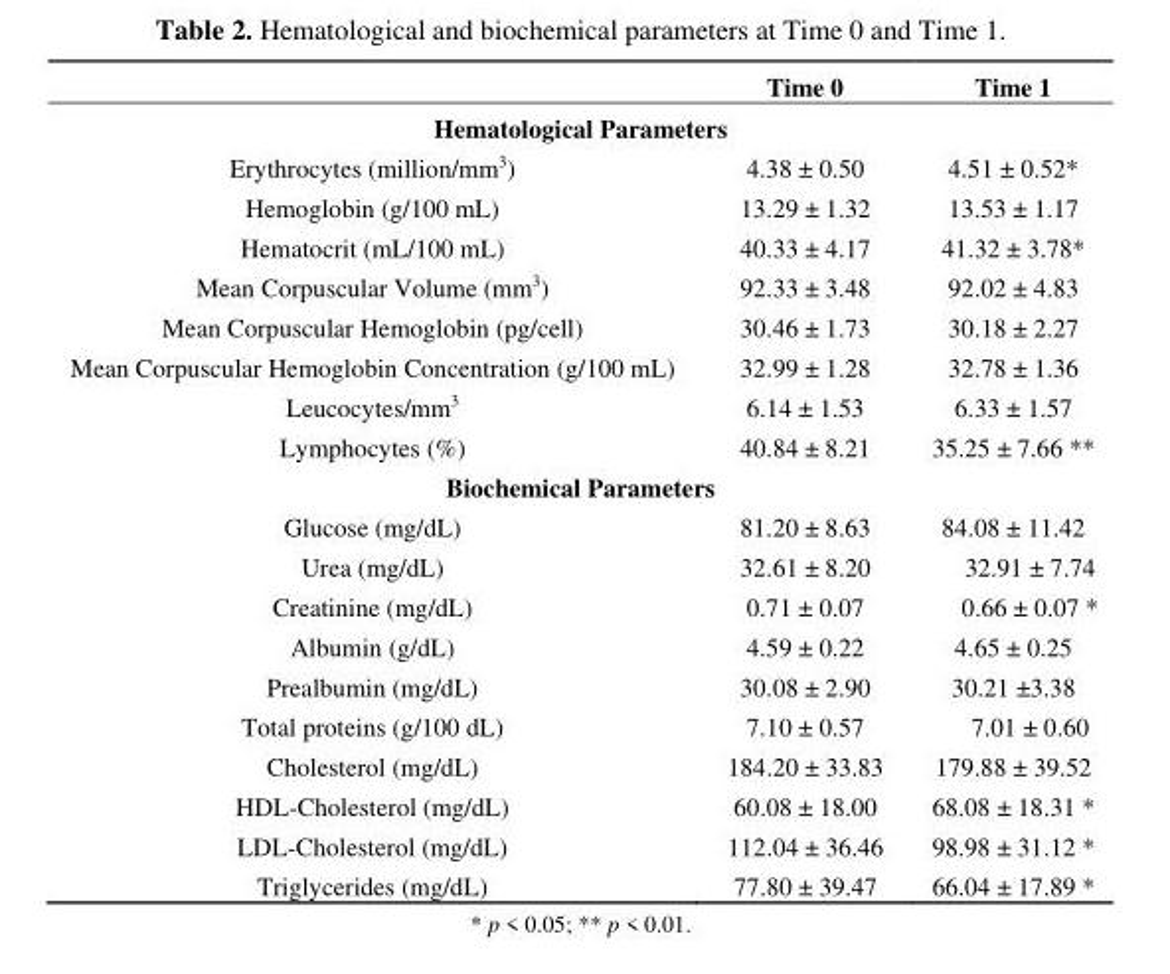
<table><thead><tr><td></td><td>Time 0</td><td>Time 1</td></tr></thead><tbody><tr><td colspan="3">Hematological Parameters</td></tr><tr><td>Erythrocytes (million/mm<sup>3</sup>)</td><td>4.38 ± 0.50</td><td>4.51 ± 0.52*</td></tr><tr><td>Hemoglobin (g/100 mL)</td><td>13.29 ± 1.32</td><td>13.53 ± 1.17</td></tr><tr><td>Hematocrit (mL/100 mL)</td><td>40.33 ± 4.17</td><td>41.32 ± 3.78*</td></tr><tr><td>Mean Corpuscular Volume (mm<sup>3</sup>)</td><td>92.33 ± 3.48</td><td>92.02 ± 4.83</td></tr><tr><td>Mean Corpuscular Hemoglobin (pg/cell)</td><td>30.46 ± 1.73</td><td>30.18 ± 2.27</td></tr><tr><td>Mean Corpuscular Hemoglobin Concentration (g/100 mL)</td><td>32.99 ± 1.28</td><td>32.78 ± 1.36</td></tr><tr><td>Leucocytes/mm<sup>3</sup></td><td>6.14 ± 1.53</td><td>6.33 ± 1.57</td></tr><tr><td>Lymphocytes (%)</td><td>40.84 ± 8.21</td><td>35.25 ± 7.66 **</td></tr><tr><td colspan="3">Biochemical Parameters</td></tr><tr><td>Glucose (mg/dL)</td><td>81.20 ± 8.63</td><td>84.08 ± 11.42</td></tr><tr><td>Urea (mg/dL)</td><td>32.61 ± 8.20</td><td>32.91 ± 7.74</td></tr><tr><td>Creatinine (mg/dL)</td><td>0.71 ± 0.07</td><td>0.66 ± 0.07 *</td></tr><tr><td>Albumin (g/dL)</td><td>4.59 ± 0.22</td><td>4.65 ± 0.25</td></tr><tr><td>Prealbumin (mg/dL)</td><td>30.08 ± 2.90</td><td>30.21 ±3.38</td></tr><tr><td>Total proteins (g/100 dL)</td><td>7.10 ± 0.57</td><td>7.01 ± 0.60</td></tr><tr><td>Cholesterol (mg/dL)</td><td>184.20 ± 33.83</td><td>179.88 ± 39.52</td></tr><tr><td>HDL-Cholesterol (mg/dL)</td><td>60.08 ± 18.00</td><td>68.08 ± 18.31 *</td></tr><tr><td>LDL-Cholesterol (mg/dL)</td><td>112.04 ± 36.46</td><td>98.98 ± 31.12 *</td></tr><tr><td>Triglycerides (mg/dL)</td><td>77.80 ± 39.47</td><td>66.04 ± 17.89 *</td></tr></tbody></table>